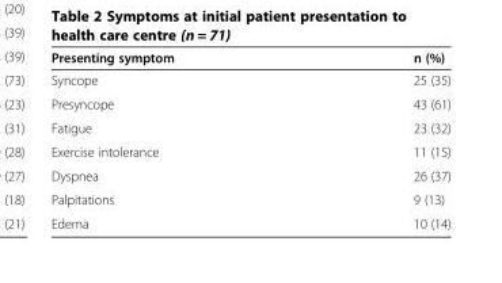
<table><thead><tr><td>Presenting symptom</td><td>n (%)</td></tr></thead><tbody><tr><td>Syncope</td><td>25 (35)</td></tr><tr><td>Presyncope</td><td>43 (61)</td></tr><tr><td>Fatigue</td><td>23 (32)</td></tr><tr><td>Exercise intolerance</td><td>11 (15)</td></tr><tr><td>Dyspnea</td><td>26 (37)</td></tr><tr><td>Palpitations</td><td>9 (13)</td></tr><tr><td>Edema</td><td>10 (14)</td></tr></tbody></table>